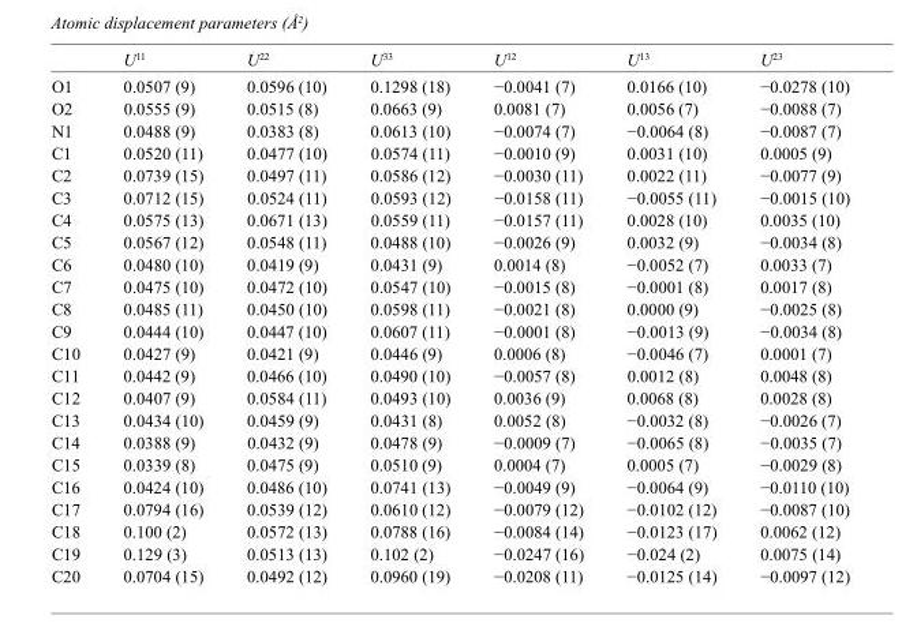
<table><thead><tr><td></td><td>U<sup>11</sup></td><td>U<sup>22</sup></td><td>U<sup>33</sup></td><td>U<sup>12</sup></td><td>U<sup>13</sup></td><td>U<sup>23</sup></td></tr></thead><tbody><tr><td>O1</td><td>0.0507 (9)</td><td>0.0596 (10)</td><td>0.1298 (18)</td><td>−0.0041 (7)</td><td>0.0166 (10)</td><td>−0.0278 (10)</td></tr><tr><td>O2</td><td>0.0555 (9)</td><td>0.0515 (8)</td><td>0.0663 (9)</td><td>0.0081 (7)</td><td>0.0056 (7)</td><td>−0.0088 (7)</td></tr><tr><td>N1</td><td>0.0488 (9)</td><td>0.0383 (8)</td><td>0.0613 (10)</td><td>−0.0074 (7)</td><td>−0.0064 (8)</td><td>−0.0087 (7)</td></tr><tr><td>C1</td><td>0.0520 (11)</td><td>0.0477 (10)</td><td>0.0574 (11)</td><td>−0.0010 (9)</td><td>0.0031 (10)</td><td>0.0005 (9)</td></tr><tr><td>C2</td><td>0.0739 (15)</td><td>0.0497 (11)</td><td>0.0586 (12)</td><td>−0.0030 (11)</td><td>0.0022 (11)</td><td>−0.0077 (9)</td></tr><tr><td>C3</td><td>0.0712 (15)</td><td>0.0524 (11)</td><td>0.0593 (12)</td><td>−0.0158 (11)</td><td>−0.0055 (11)</td><td>−0.0015 (10)</td></tr><tr><td>C4</td><td>0.0575 (13)</td><td>0.0671 (13)</td><td>0.0559 (11)</td><td>−0.0157 (11)</td><td>0.0028 (10)</td><td>0.0035 (10)</td></tr><tr><td>C5</td><td>0.0567 (12)</td><td>0.0548 (11)</td><td>0.0488 (10)</td><td>−0.0026 (9)</td><td>0.0032 (9)</td><td>−0.0034 (8)</td></tr><tr><td>C6</td><td>0.0480 (10)</td><td>0.0419 (9)</td><td>0.0431 (9)</td><td>0.0014 (8)</td><td>−0.0052 (7)</td><td>0.0033 (7)</td></tr><tr><td>C7</td><td>0.0475 (10)</td><td>0.0472 (10)</td><td>0.0547 (10)</td><td>−0.0015 (8)</td><td>−0.0001 (8)</td><td>0.0017 (8)</td></tr><tr><td>C8</td><td>0.0485 (11)</td><td>0.0450 (10)</td><td>0.0598 (11)</td><td>−0.0021 (8)</td><td>0.0000 (9)</td><td>−0.0025 (8)</td></tr><tr><td>C9</td><td>0.0444 (10)</td><td>0.0447 (10)</td><td>0.0607 (11)</td><td>−0.0001 (8)</td><td>−0.0013 (9)</td><td>−0.0034 (8)</td></tr><tr><td>C10</td><td>0.0427 (9)</td><td>0.0421 (9)</td><td>0.0446 (9)</td><td>0.0006 (8)</td><td>−0.0046 (7)</td><td>0.0001 (7)</td></tr><tr><td>C11</td><td>0.0442 (9)</td><td>0.0466 (10)</td><td>0.0490 (10)</td><td>−0.0057 (8)</td><td>0.0012 (8)</td><td>0.0048 (8)</td></tr><tr><td>C12</td><td>0.0407 (9)</td><td>0.0584 (11)</td><td>0.0493 (10)</td><td>0.0036 (9)</td><td>0.0068 (8)</td><td>0.0028 (8)</td></tr><tr><td>C13</td><td>0.0434 (10)</td><td>0.0459 (9)</td><td>0.0431 (8)</td><td>0.0052 (8)</td><td>−0.0032 (8)</td><td>−0.0026 (7)</td></tr><tr><td>C14</td><td>0.0388 (9)</td><td>0.0432 (9)</td><td>0.0478 (9)</td><td>−0.0009 (7)</td><td>−0.0065 (8)</td><td>−0.0035 (7)</td></tr><tr><td>C15</td><td>0.0339 (8)</td><td>0.0475 (9)</td><td>0.0510 (9)</td><td>0.0004 (7)</td><td>0.0005 (7)</td><td>−0.0029 (8)</td></tr><tr><td>C16</td><td>0.0424 (10)</td><td>0.0486 (10)</td><td>0.0741 (13)</td><td>−0.0049 (9)</td><td>−0.0064 (9)</td><td>−0.0110 (10)</td></tr><tr><td>C17</td><td>0.0794 (16)</td><td>0.0539 (12)</td><td>0.0610 (12)</td><td>−0.0079 (12)</td><td>−0.0102 (12)</td><td>−0.0087 (10)</td></tr><tr><td>C18</td><td>0.100 (2)</td><td>0.0572 (13)</td><td>0.0788 (16)</td><td>−0.0084 (14)</td><td>−0.0123 (17)</td><td>0.0062 (12)</td></tr><tr><td>C19</td><td>0.129 (3)</td><td>0.0513 (13)</td><td>0.102 (2)</td><td>−0.0247 (16)</td><td>−0.024 (2)</td><td>0.0075 (14)</td></tr><tr><td>C20</td><td>0.0704 (15)</td><td>0.0492 (12)</td><td>0.0960 (19)</td><td>−0.0208 (11)</td><td>−0.0125 (14)</td><td>−0.0097 (12)</td></tr></tbody></table>